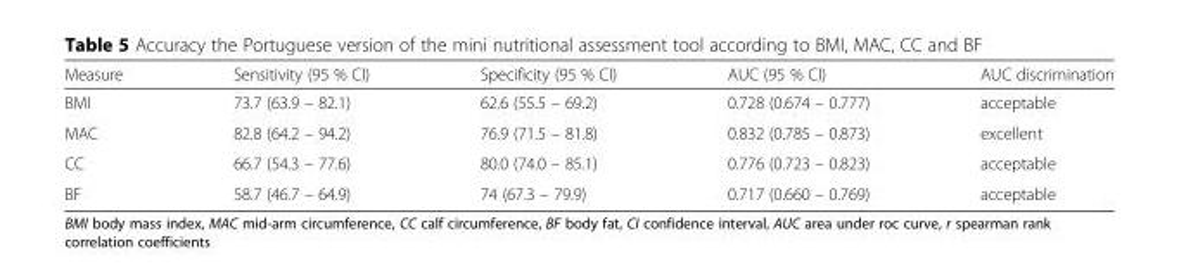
<table><thead><tr><td>Measure</td><td>Sensitivity (95 % CI)</td><td>Specificity (95 % CI)</td><td>AUC (95 % CI)</td><td>AUC discrimination</td></tr></thead><tbody><tr><td>BMI</td><td>73.7 (63.9 – 82.1)</td><td>62.6 (55.5 – 69.2)</td><td>0.728 (0.674 – 0.777)</td><td>acceptable</td></tr><tr><td>MAC</td><td>82.8 (64.2 – 94.2)</td><td>76.9 (71.5 – 81.8)</td><td>0.832 (0.785 – 0.873)</td><td>excellent</td></tr><tr><td>CC</td><td>66.7 (54.3 – 77.6)</td><td>80.0 (74.0 – 85.1)</td><td>0.776 (0.723 – 0.823)</td><td>acceptable</td></tr><tr><td>BF</td><td>58.7 (46.7 – 64.9)</td><td>74 (67.3 – 79.9)</td><td>0.717 (0.660 – 0.769)</td><td>acceptable</td></tr></tbody></table>